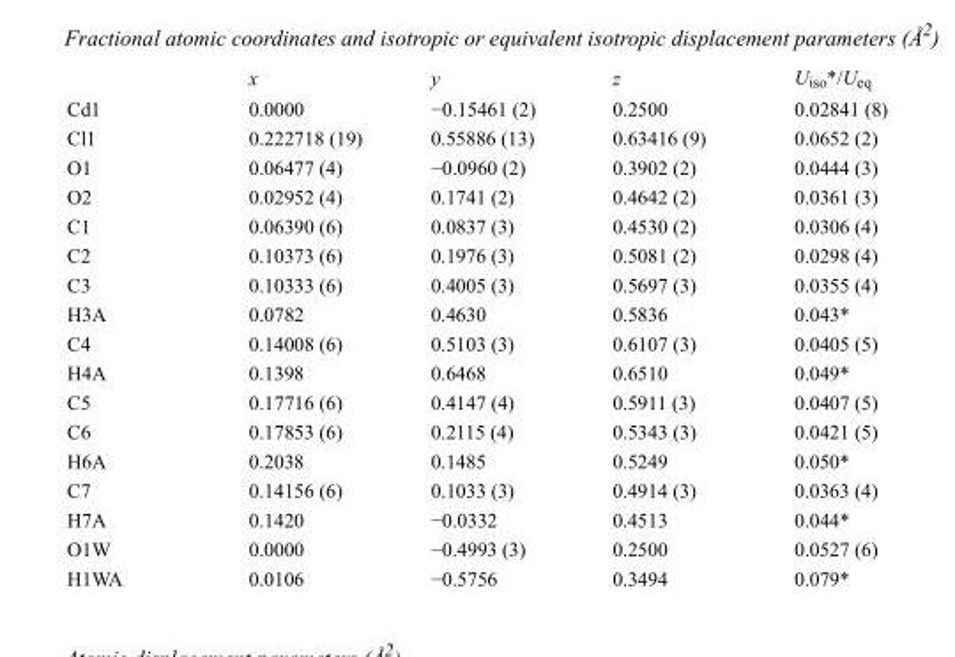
<table><thead><tr><td></td><td>x</td><td>y</td><td>z</td><td>U<sub>iso</sub>*/U<sub>eq</sub></td></tr></thead><tbody><tr><td>Cd1</td><td>0.0000</td><td>−0.15461 (2)</td><td>0.2500</td><td>0.02841 (8)</td></tr><tr><td>Cl1</td><td>0.222718 (19)</td><td>0.55886 (13)</td><td>0.63416 (9)</td><td>0.0652 (2)</td></tr><tr><td>O1</td><td>0.06477 (4)</td><td>−0.0960 (2)</td><td>0.3902 (2)</td><td>0.0444 (3)</td></tr><tr><td>O2</td><td>0.02952 (4)</td><td>0.1741 (2)</td><td>0.4642 (2)</td><td>0.0361 (3)</td></tr><tr><td>C1</td><td>0.06390 (6)</td><td>0.0837 (3)</td><td>0.4530 (2)</td><td>0.0306 (4)</td></tr><tr><td>C2</td><td>0.10373 (6)</td><td>0.1976 (3)</td><td>0.5081 (2)</td><td>0.0298 (4)</td></tr><tr><td>C3</td><td>0.10333 (6)</td><td>0.4005 (3)</td><td>0.5697 (3)</td><td>0.0355 (4)</td></tr><tr><td>H3A</td><td>0.0782</td><td>0.4630</td><td>0.5836</td><td>0.043*</td></tr><tr><td>C4</td><td>0.14008 (6)</td><td>0.5103 (3)</td><td>0.6107 (3)</td><td>0.0405 (5)</td></tr><tr><td>H4A</td><td>0.1398</td><td>0.6468</td><td>0.6510</td><td>0.049*</td></tr><tr><td>C5</td><td>0.17716 (6)</td><td>0.4147 (4)</td><td>0.5911 (3)</td><td>0.0407 (5)</td></tr><tr><td>C6</td><td>0.17853 (6)</td><td>0.2115 (4)</td><td>0.5343 (3)</td><td>0.0421 (5)</td></tr><tr><td>H6A</td><td>0.2038</td><td>0.1485</td><td>0.5249</td><td>0.050*</td></tr><tr><td>C7</td><td>0.14156 (6)</td><td>0.1033 (3)</td><td>0.4914 (3)</td><td>0.0363 (4)</td></tr><tr><td>H7A</td><td>0.1420</td><td>−0.0332</td><td>0.4513</td><td>0.044*</td></tr><tr><td>O1W</td><td>0.0000</td><td>−0.4993 (3)</td><td>0.2500</td><td>0.0527 (6)</td></tr><tr><td>H1WA</td><td>0.0106</td><td>−0.5756</td><td>0.3494</td><td>0.079*</td></tr></tbody></table>